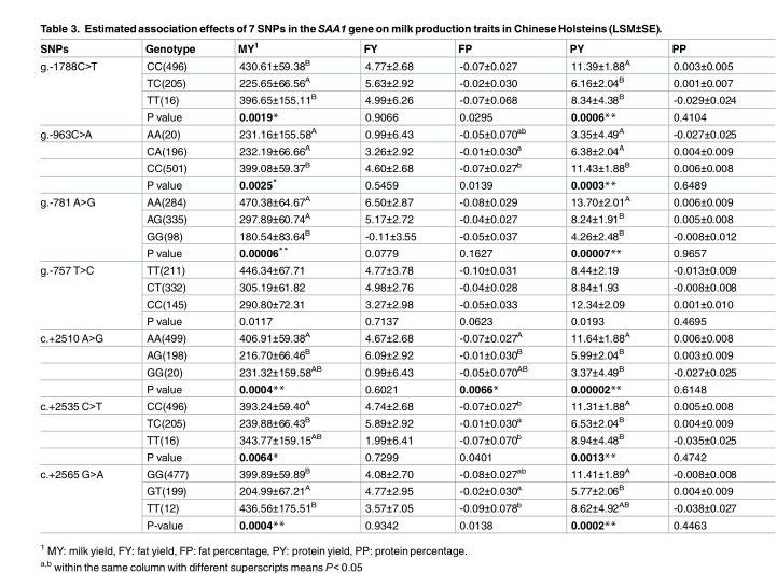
<table><thead><tr><td>SNPs</td><td>Genotype</td><td>MY<sup>1</sup></td><td>FY</td><td>FP</td><td>PY</td><td>PP</td></tr></thead><tbody><tr><td rowspan="4">g.-1788C&gt;T</td><td>CC(496)</td><td>430.61±59.38<sup>B</sup></td><td>4.77±2.68</td><td>-0.07±0.027</td><td>11.39±1.88<sup>A</sup></td><td>0.003±0.005</td></tr><tr><td>TC(205)</td><td>225.65±66.56<sup>A</sup></td><td>5.63±2.92</td><td>-0.02±0.030</td><td>6.16±2.04<sup>B</sup></td><td>0.001±0.007</td></tr><tr><td>TT(16)</td><td>396.65±155.11<sup>B</sup></td><td>4.99±6.26</td><td>-0.07±0.068</td><td>8.34±4.38<sup>B</sup></td><td>-0.029±0.024</td></tr><tr><td>P value</td><td>0.0019*</td><td>0.9066</td><td>0.0295</td><td>0.0006**</td><td>0.4104</td></tr><tr><td rowspan="4">g.-963C&gt;A</td><td>AA(20)</td><td>231.16±155.58<sup>A</sup></td><td>0.99±6.43</td><td>-0.05±0.070<sup>ab</sup></td><td>3.35±4.49<sup>A</sup></td><td>-0.027±0.025</td></tr><tr><td>CA(196)</td><td>232.19±66.66<sup>A</sup></td><td>3.26±2.92</td><td>-0.01±0.030<sup>a</sup></td><td>6.38±2.04<sup>A</sup></td><td>0.004±0.009</td></tr><tr><td>CC(501)</td><td>399.08±59.37<sup>B</sup></td><td>4.60±2.68</td><td>-0.07±0.027<sup>b</sup></td><td>11.43±1.88<sup>B</sup></td><td>0.006±0.008</td></tr><tr><td>P value</td><td>0.0025*</td><td>0.5459</td><td>0.0139</td><td>0.0003**</td><td>0.6489</td></tr><tr><td rowspan="4">g.-781 A&gt;G</td><td>AA(284)</td><td>470.38±64.67<sup>A</sup></td><td>6.50±2.87</td><td>-0.08±0.029</td><td>13.70±2.01<sup>A</sup></td><td>0.006±0.009</td></tr><tr><td>AG(335)</td><td>297.89±60.74<sup>A</sup></td><td>5.17±2.72</td><td>-0.04±0.027</td><td>8.24±1.91<sup>B</sup></td><td>0.005±0.008</td></tr><tr><td>GG(98)</td><td>180.54±83.64<sup>B</sup></td><td>-0.11±3.55</td><td>-0.05±0.037</td><td>4.26±2.48<sup>B</sup></td><td>-0.008±0.012</td></tr><tr><td>P value</td><td>0.00006**</td><td>0.0779</td><td>0.1627</td><td>0.00007**</td><td>0.9657</td></tr><tr><td rowspan="4">g.-757 T&gt;C</td><td>TT(211)</td><td>446.34±67.71</td><td>4.77±3.78</td><td>-0.10±0.031</td><td>8.44±2.19</td><td>-0.013±0.009</td></tr><tr><td>CT(332)</td><td>305.19±61.82</td><td>4.98±2.76</td><td>-0.04±0.028</td><td>8.84±1.93</td><td>-0.008±0.008</td></tr><tr><td>CC(145)</td><td>290.80±72.31</td><td>3.27±2.98</td><td>-0.05±0.033</td><td>12.34±2.09</td><td>0.001±0.010</td></tr><tr><td>P value</td><td>0.0117</td><td>0.7137</td><td>0.0623</td><td>0.0193</td><td>0.4695</td></tr><tr><td rowspan="4">c.+2510 A&gt;G</td><td>AA(499)</td><td>406.91±59.38<sup>A</sup></td><td>4.67±2.68</td><td>-0.07±0.027<sup>A</sup></td><td>11.64±1.88<sup>A</sup></td><td>0.006±0.008</td></tr><tr><td>AG(198)</td><td>216.70±66.46<sup>B</sup></td><td>6.09±2.92</td><td>-0.01±0.030<sup>B</sup></td><td>5.99±2.04<sup>B</sup></td><td>0.003±0.009</td></tr><tr><td>GG(20)</td><td>231.32±159.58<sup>AB</sup></td><td>0.99±6.43</td><td>-0.05±0.070<sup>AB</sup></td><td>3.37±4.49<sup>B</sup></td><td>-0.027±0.025</td></tr><tr><td>P value</td><td>0.0004**</td><td>0.6021</td><td>0.0066*</td><td>0.00002**</td><td>0.6148</td></tr><tr><td rowspan="4">c.+2535 C&gt;T</td><td>CC(496)</td><td>393.24±59.40<sup>A</sup></td><td>4.74±2.68</td><td>-0.07±0.027<sup>b</sup></td><td>11.31±1.88<sup>A</sup></td><td>0.005±0.008</td></tr><tr><td>TC(205)</td><td>239.88±66.43<sup>B</sup></td><td>5.89±2.92</td><td>-0.01±0.030<sup>a</sup></td><td>6.53±2.04<sup>B</sup></td><td>0.004±0.009</td></tr><tr><td>TT(16)</td><td>343.77±159.15<sup>AB</sup></td><td>1.99±6.41</td><td>-0.07±0.070<sup>b</sup></td><td>8.94±4.48<sup>B</sup></td><td>-0.035±0.025</td></tr><tr><td>P value</td><td>0.0064*</td><td>0.7299</td><td>0.0401</td><td>0.0013**</td><td>0.4742</td></tr><tr><td rowspan="4">c.+2565 G&gt;A</td><td>GG(477)</td><td>399.89±59.89<sup>B</sup></td><td>4.08±2.70</td><td>-0.08±0.027<sup>ab</sup></td><td>11.41±1.89<sup>A</sup></td><td>-0.008±0.008</td></tr><tr><td>GT(199)</td><td>204.99±67.21<sup>A</sup></td><td>4.77±2.95</td><td>-0.02±0.030<sup>a</sup></td><td>5.77±2.06<sup>B</sup></td><td>0.004±0.009</td></tr><tr><td>TT(12)</td><td>436.56±175.51<sup>B</sup></td><td>3.57±7.05</td><td>-0.09±0.078<sup>b</sup></td><td>8.62±4.92<sup>AB</sup></td><td>-0.038±0.027</td></tr><tr><td>P-value</td><td>0.0004**</td><td>0.9342</td><td>0.0138</td><td>0.0002**</td><td>0.4463</td></tr></tbody></table>